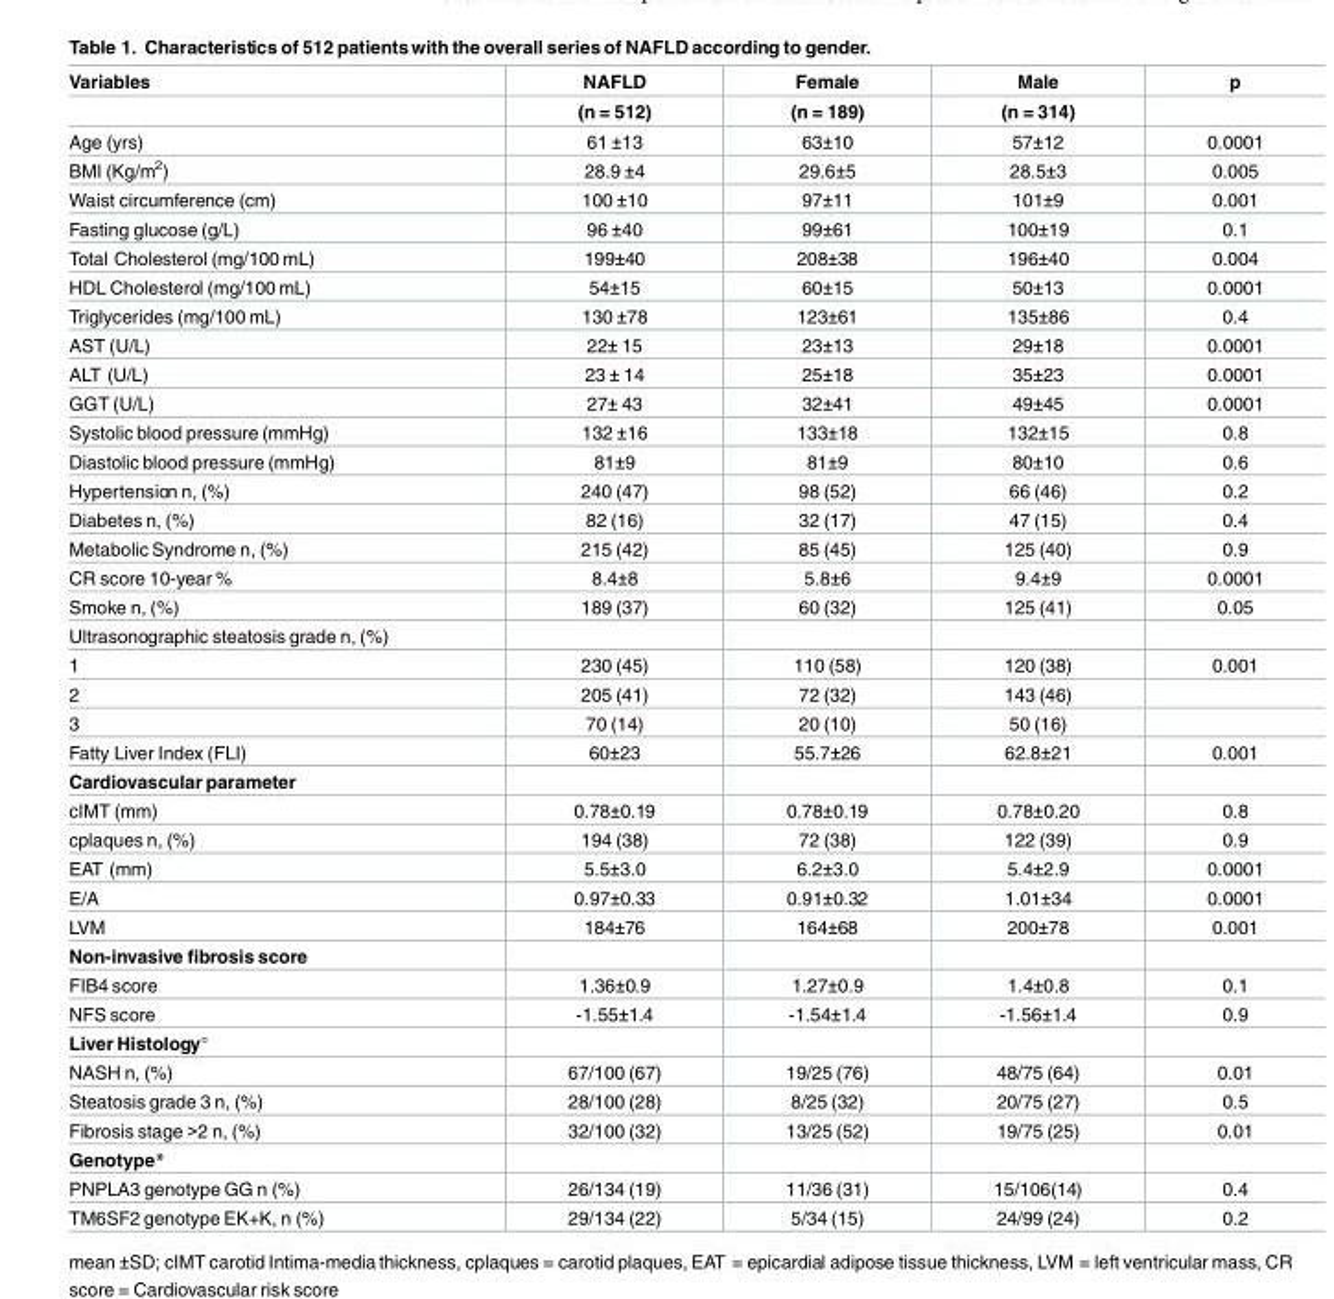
<table><thead><tr><td rowspan="2">Variables</td><td rowspan="2">NAFLD (n = 512)</td><td rowspan="2">Female (n = 189)</td><td rowspan="2">Male (n = 314)</td><td rowspan="2">p</td></tr><tr></tr></thead><tbody><tr><td>Age (yrs)</td><td>61 ±13</td><td>63±10</td><td>57±12</td><td>0.0001</td></tr><tr><td>BMI (Kg/m<sup>2</sup>)</td><td>28.9 ±4</td><td>29.6±5</td><td>28.5±3</td><td>0.005</td></tr><tr><td>Waist circumference (cm)</td><td>100 ±10</td><td>97±11</td><td>101±9</td><td>0.001</td></tr><tr><td>Fasting glucose (g/L)</td><td>96 ±40</td><td>99±61</td><td>100±19</td><td>0.1</td></tr><tr><td>Total Cholesterol (mg/100 mL)</td><td>199±40</td><td>208±38</td><td>196±40</td><td>0.004</td></tr><tr><td>HDL Cholesterol (mg/100 mL)</td><td>54±15</td><td>60±15</td><td>50±13</td><td>0.0001</td></tr><tr><td>Triglycerides (mg/100 mL)</td><td>130 ±78</td><td>123±61</td><td>135±86</td><td>0.4</td></tr><tr><td>AST (U/L)</td><td>22± 15</td><td>23±13</td><td>29±18</td><td>0.0001</td></tr><tr><td>ALT (U/L)</td><td>23 ± 14</td><td>25±18</td><td>35±23</td><td>0.0001</td></tr><tr><td>GGT (U/L)</td><td>27± 43</td><td>32±41</td><td>49±45</td><td>0.0001</td></tr><tr><td>Systolic blood pressure (mmHg)</td><td>132 ±16</td><td>133±18</td><td>132±15</td><td>0.8</td></tr><tr><td>Diastolic blood pressure (mmHg)</td><td>81±9</td><td>81±9</td><td>80±10</td><td>0.6</td></tr><tr><td>Hypertension n, (%)</td><td>240 (47)</td><td>98 (52)</td><td>66 (46)</td><td>0.2</td></tr><tr><td>Diabetes n, (%)</td><td>82 (16)</td><td>32 (17)</td><td>47 (15)</td><td>0.4</td></tr><tr><td>Metabolic Syndrome n, (%)</td><td>215 (42)</td><td>85 (45)</td><td>125 (40)</td><td>0.9</td></tr><tr><td>CR score 10-year %</td><td>8.4±8</td><td>5.8±6</td><td>9.4±9</td><td>0.0001</td></tr><tr><td>Smoke n, (%)</td><td>189 (37)</td><td>60 (32)</td><td>125 (41)</td><td>0.05</td></tr><tr><td colspan="5">Ultrasonographic steatosis grade n, (%)</td></tr><tr><td>1</td><td>230 (45)</td><td>110 (58)</td><td>120 (38)</td><td>0.001</td></tr><tr><td>2</td><td>205 (41)</td><td>72 (32)</td><td>143 (46)</td><td></td></tr><tr><td>3</td><td>70 (14)</td><td>20 (10)</td><td>50 (16)</td><td></td></tr><tr><td>Fatty Liver Index (FLI)</td><td>60±23</td><td>55.7±26</td><td>62.8±21</td><td>0.001</td></tr><tr><td colspan="5">Cardiovascular parameter</td></tr><tr><td>cIMT (mm)</td><td>0.78±0.19</td><td>0.78±0.19</td><td>0.78±0.20</td><td>0.8</td></tr><tr><td>cplaques n, (%)</td><td>194 (38)</td><td>72 (38)</td><td>122 (39)</td><td>0.9</td></tr><tr><td>EAT (mm)</td><td>5.5±3.0</td><td>6.2±3.0</td><td>5.4±2.9</td><td>0.0001</td></tr><tr><td>E/A</td><td>0.97±0.33</td><td>0.91±0.32</td><td>1.01±34</td><td>0.0001</td></tr><tr><td>LVM</td><td>184±76</td><td>164±68</td><td>200±78</td><td>0.001</td></tr><tr><td colspan="5">Non-invasive fibrosis score</td></tr><tr><td>FIB4 score</td><td>1.36±0.9</td><td>1.27±0.9</td><td>1.4±0.8</td><td>0.1</td></tr><tr><td>NFS score</td><td>-1.55±1.4</td><td>-1.54±1.4</td><td>-1.56±1.4</td><td>0.9</td></tr><tr><td colspan="5">Liver Histology°</td></tr><tr><td>NASH n, (%)</td><td>67/100 (67)</td><td>19/25 (76)</td><td>48/75 (64)</td><td>0.01</td></tr><tr><td>Steatosis grade 3 n, (%)</td><td>28/100 (28)</td><td>8/25 (32)</td><td>20/75 (27)</td><td>0.5</td></tr><tr><td>Fibrosis stage &gt;2 n, (%)</td><td>32/100 (32)</td><td>13/25 (52)</td><td>19/75 (25)</td><td>0.01</td></tr><tr><td colspan="5">Genotype*</td></tr><tr><td>PNPLA3 genotype GG n (%)</td><td>26/134 (19)</td><td>11/36 (31)</td><td>15/106(14)</td><td>0.4</td></tr><tr><td>TM6SF2 genotype EK+K, n (%)</td><td>29/134 (22)</td><td>5/34 (15)</td><td>24/99 (24)</td><td>0.2</td></tr></tbody></table>